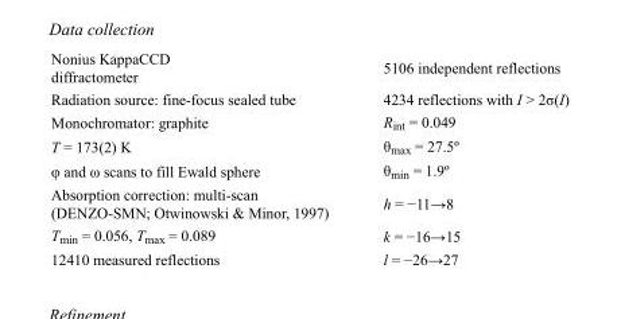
<table><tbody><tr><td>Nonius KappaCCD diffractometer</td><td>5106 independent reflections</td></tr><tr><td>Radiation source: fine-focus sealed tube</td><td>4234 reflections with I &gt; 2σ(I)</td></tr><tr><td>Monochromator: graphite</td><td>R<sub>int</sub> = 0.049</td></tr><tr><td>T = 173(2) K</td><td>θ<sub>max</sub> = 27.5º</td></tr><tr><td>φ and ω scans to fill Ewald sphere</td><td>θ<sub>min</sub> = 1.9º</td></tr><tr><td>Absorption correction: multi-scan (DENZO-SMN; Otwinowski &amp; Minor, 1997)</td><td>h = −11→8</td></tr><tr><td>T<sub>min</sub> = 0.056, T<sub>max</sub> = 0.089</td><td>k = −16→15</td></tr><tr><td>12410 measured reflections</td><td>l = −26→27</td></tr></tbody></table>